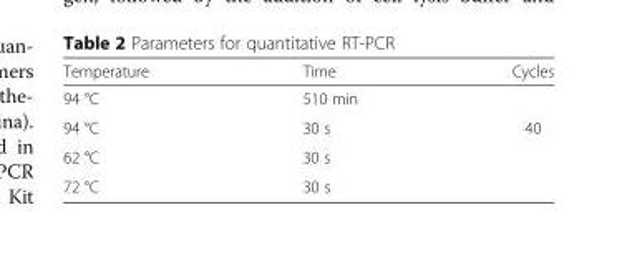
<table><thead><tr><td>Temperature</td><td>Time</td><td>Cycles</td></tr></thead><tbody><tr><td>94 °C</td><td>510 min</td><td></td></tr><tr><td>94 °C</td><td>30 s</td><td>40</td></tr><tr><td>62 °C</td><td>30 s</td><td></td></tr><tr><td>72 °C</td><td>30 s</td><td></td></tr></tbody></table>